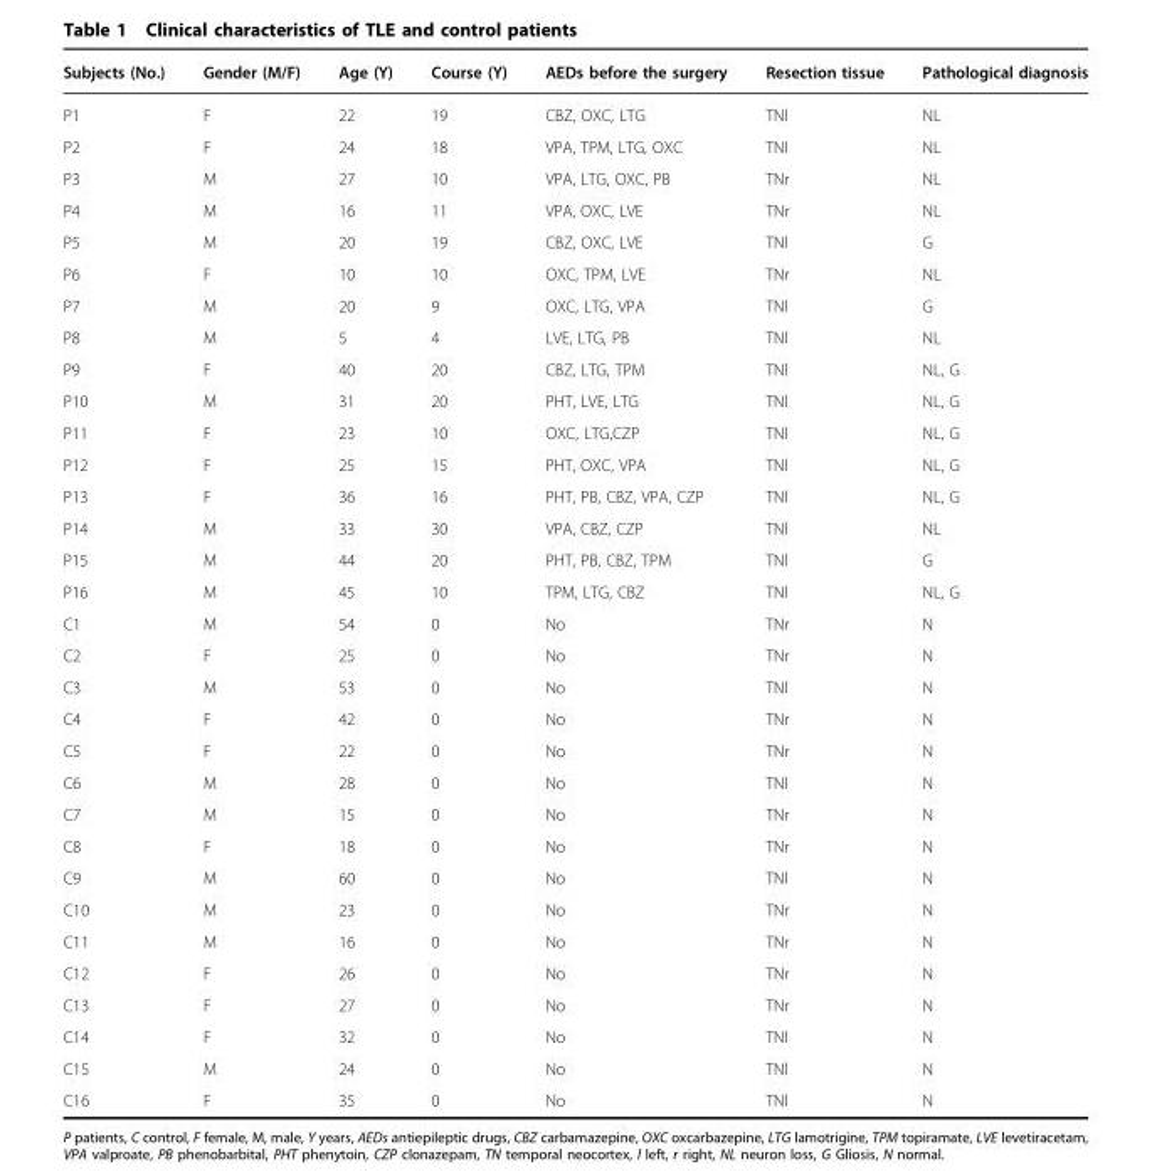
<table><thead><tr><td>Subjects (No.)</td><td>Gender (M/F)</td><td>Age (Y)</td><td>Course (Y)</td><td>AEDs before the surgery</td><td>Resection tissue</td><td>Pathological diagnosis</td></tr></thead><tbody><tr><td>P1</td><td>F</td><td>22</td><td>19</td><td>CBZ, OXC, LTG</td><td>TNl</td><td>NL</td></tr><tr><td>P2</td><td>F</td><td>24</td><td>18</td><td>VPA, TPM, LTG, OXC</td><td>TNl</td><td>NL</td></tr><tr><td>P3</td><td>M</td><td>27</td><td>10</td><td>VPA, LTG, OXC, PB</td><td>TNr</td><td>NL</td></tr><tr><td>P4</td><td>M</td><td>16</td><td>11</td><td>VPA, OXC, LVE</td><td>TNr</td><td>NL</td></tr><tr><td>P5</td><td>M</td><td>20</td><td>19</td><td>CBZ, OXC, LVE</td><td>TNl</td><td>G</td></tr><tr><td>P6</td><td>F</td><td>10</td><td>10</td><td>OXC, TPM, LVE</td><td>TNr</td><td>NL</td></tr><tr><td>P7</td><td>M</td><td>20</td><td>9</td><td>OXC, LTG, VPA</td><td>TNl</td><td>G</td></tr><tr><td>P8</td><td>M</td><td>5</td><td>4</td><td>LVE, LTG, PB</td><td>TNl</td><td>NL</td></tr><tr><td>P9</td><td>F</td><td>40</td><td>20</td><td>CBZ, LTG, TPM</td><td>TNl</td><td>NL, G</td></tr><tr><td>P10</td><td>M</td><td>31</td><td>20</td><td>PHT, LVE, LTG</td><td>TNl</td><td>NL, G</td></tr><tr><td>P11</td><td>F</td><td>23</td><td>10</td><td>OXC, LTG,CZP</td><td>TNl</td><td>NL, G</td></tr><tr><td>P12</td><td>F</td><td>25</td><td>15</td><td>PHT, OXC, VPA</td><td>TNl</td><td>NL, G</td></tr><tr><td>P13</td><td>F</td><td>36</td><td>16</td><td>PHT, PB, CBZ, VPA, CZP</td><td>TNl</td><td>NL, G</td></tr><tr><td>P14</td><td>M</td><td>33</td><td>30</td><td>VPA, CBZ, CZP</td><td>TNl</td><td>NL</td></tr><tr><td>P15</td><td>M</td><td>44</td><td>20</td><td>PHT, PB, CBZ, TPM</td><td>TNl</td><td>G</td></tr><tr><td>P16</td><td>M</td><td>45</td><td>10</td><td>TPM, LTG, CBZ</td><td>TNl</td><td>NL, G</td></tr><tr><td>C1</td><td>M</td><td>54</td><td>0</td><td>No</td><td>TNr</td><td>N</td></tr><tr><td>C2</td><td>F</td><td>25</td><td>0</td><td>No</td><td>TNr</td><td>N</td></tr><tr><td>C3</td><td>M</td><td>53</td><td>0</td><td>No</td><td>TNl</td><td>N</td></tr><tr><td>C4</td><td>F</td><td>42</td><td>0</td><td>No</td><td>TNr</td><td>N</td></tr><tr><td>C5</td><td>F</td><td>22</td><td>0</td><td>No</td><td>TNr</td><td>N</td></tr><tr><td>C6</td><td>M</td><td>28</td><td>0</td><td>No</td><td>TNl</td><td>N</td></tr><tr><td>C7</td><td>M</td><td>15</td><td>0</td><td>No</td><td>TNr</td><td>N</td></tr><tr><td>C8</td><td>F</td><td>18</td><td>0</td><td>No</td><td>TNr</td><td>N</td></tr><tr><td>C9</td><td>M</td><td>60</td><td>0</td><td>No</td><td>TNl</td><td>N</td></tr><tr><td>C10</td><td>M</td><td>23</td><td>0</td><td>No</td><td>TNr</td><td>N</td></tr><tr><td>C11</td><td>M</td><td>16</td><td>0</td><td>No</td><td>TNr</td><td>N</td></tr><tr><td>C12</td><td>F</td><td>26</td><td>0</td><td>No</td><td>TNr</td><td>N</td></tr><tr><td>C13</td><td>F</td><td>27</td><td>0</td><td>No</td><td>TNr</td><td>N</td></tr><tr><td>C14</td><td>F</td><td>32</td><td>0</td><td>No</td><td>TNl</td><td>N</td></tr><tr><td>C15</td><td>M</td><td>24</td><td>0</td><td>No</td><td>TNl</td><td>N</td></tr><tr><td>C16</td><td>F</td><td>35</td><td>0</td><td>No</td><td>TNl</td><td>N</td></tr></tbody></table>